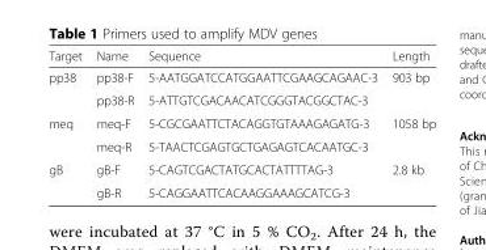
<table><thead><tr><td>Target</td><td>Name</td><td>Sequence</td><td>Length</td></tr></thead><tbody><tr><td rowspan="2">pp38</td><td>pp38-F</td><td>5-AATGGATCCATGGAATTCGAAGCAGAAC-3</td><td>903 bp</td></tr><tr><td>pp38-R</td><td>5-ATTGTCGACAACATCGGGTACGGCTAC-3</td><td></td></tr><tr><td rowspan="2">meq</td><td>meq-F</td><td>5-CGCGAATTCTACAGGTGTAAAGAGATG-3</td><td>1058 bp</td></tr><tr><td>meq-R</td><td>5-TAACTCGAGTGCTGAGAGTCACAATGC-3</td><td></td></tr><tr><td rowspan="2">gB</td><td>gB-F</td><td>5-CAGTCGACTATGCACTATTTTAG-3</td><td>2.8 kb</td></tr><tr><td>gB-R</td><td>5-CAGGAATTCACAAGGAAAGCATCG-3</td><td></td></tr></tbody></table>